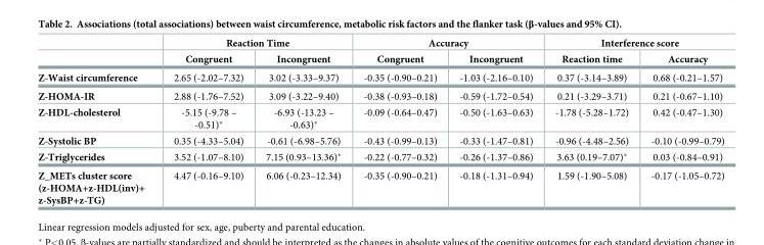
<table><thead><tr><td rowspan="2"></td><td colspan="2">Reaction Time</td><td colspan="2">Accuracy</td><td colspan="2">Interference score</td></tr><tr><td>Congruent</td><td>Incongruent</td><td>Congruent</td><td>Incongruent</td><td>Reaction time</td><td>Accuracy</td></tr></thead><tbody><tr><td>Z-Waist circumference</td><td>2.65 (-2.02–7.32)</td><td>3.02 (-3.33–9.37)</td><td>-0.35 (-0.90–0.21)</td><td>-1.03 (-2.16–0.10)</td><td>0.37 (-3.14–3.89)</td><td>0.68 (-0.21–1.57)</td></tr><tr><td>Z-HOMA-IR</td><td>2.88 (-1.76–7.52)</td><td>3.09 (-3.22–9.40)</td><td>-0.38 (-0.93–0.18)</td><td>-0.59 (-1.72–0.54)</td><td>0.21 (-3.29–3.71)</td><td>0.21 (-0.67–1.10)</td></tr><tr><td>Z-HDL-cholesterol</td><td>-5.15 (-9.78 – -0.51)*</td><td>-6.93 (-13.23 – -0.63)*</td><td>-0.09 (-0.64–0.47)</td><td>-0.50 (-1.63–0.63)</td><td>-1.78 (-5.28–1.72)</td><td>0.42 (-0.47–1.30)</td></tr><tr><td>Z-Systolic BP</td><td>0.35 (-4.33–5.04)</td><td>-0.61 (-6.98–5.76)</td><td>-0.43 (-0.99–0.13)</td><td>-0.33 (-1.47–0.81)</td><td>-0.96 (-4.48–2.56)</td><td>-0.10 (-0.99–0.79)</td></tr><tr><td>Z-Triglycerides</td><td>3.52 (-1.07–8.10)</td><td>7.15 (0.93–13.36)*</td><td>-0.22 (-0.77–0.32)</td><td>-0.26 (-1.37–0.86)</td><td>3.63 (0.19–7.07)*</td><td>0.03 (-0.84–0.91)</td></tr><tr><td>Z_METs cluster score (z-HOMA+z-HDL(inv)+ z-SysBP+z-TG)</td><td>4.47 (-0.16–9.10)</td><td>6.06 (-0.23–12.34)</td><td>-0.35 (-0.90–0.21)</td><td>-0.18 (-1.31–0.94)</td><td>1.59 (-1.90–5.08)</td><td>-0.17 (-1.05–0.72)</td></tr></tbody></table>